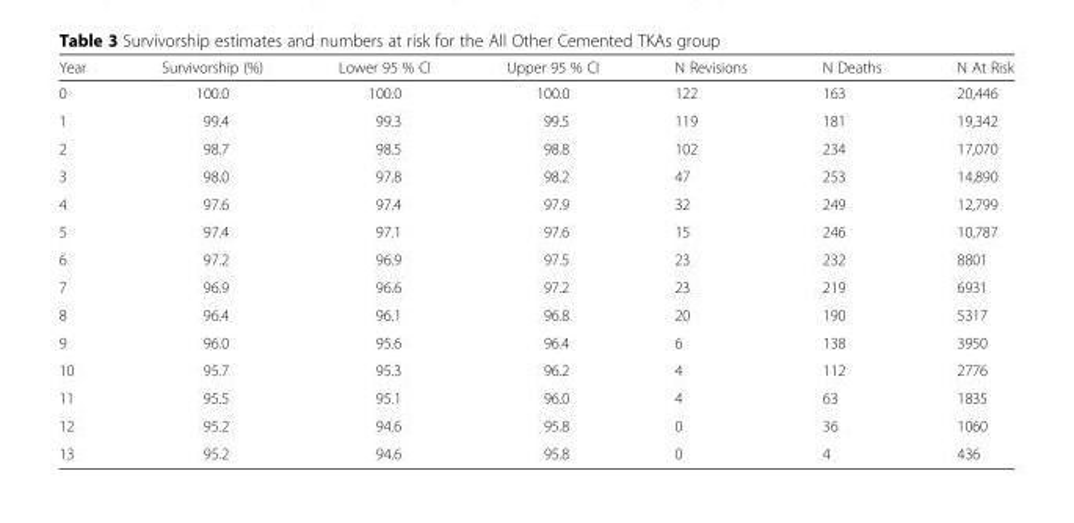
<table><thead><tr><td>Year</td><td>Survivorship (%)</td><td>Lower 95 % CI</td><td>Upper 95 % CI</td><td>N Revisions</td><td>N Deaths</td><td>N At Risk</td></tr></thead><tbody><tr><td>0</td><td>100.0</td><td>100.0</td><td>100.0</td><td>122</td><td>163</td><td>20,446</td></tr><tr><td>1</td><td>99.4</td><td>99.3</td><td>99.5</td><td>119</td><td>181</td><td>19,342</td></tr><tr><td>2</td><td>98.7</td><td>98.5</td><td>98.8</td><td>102</td><td>234</td><td>17,070</td></tr><tr><td>3</td><td>98.0</td><td>97.8</td><td>98.2</td><td>47</td><td>253</td><td>14,890</td></tr><tr><td>4</td><td>97.6</td><td>97.4</td><td>97.9</td><td>32</td><td>249</td><td>12,799</td></tr><tr><td>5</td><td>97.4</td><td>97.1</td><td>97.6</td><td>15</td><td>246</td><td>10,787</td></tr><tr><td>6</td><td>97.2</td><td>96.9</td><td>97.5</td><td>23</td><td>232</td><td>8801</td></tr><tr><td>7</td><td>96.9</td><td>96.6</td><td>97.2</td><td>23</td><td>219</td><td>6931</td></tr><tr><td>8</td><td>96.4</td><td>96.1</td><td>96.8</td><td>20</td><td>190</td><td>5317</td></tr><tr><td>9</td><td>96.0</td><td>95.6</td><td>96.4</td><td>6</td><td>138</td><td>3950</td></tr><tr><td>10</td><td>95.7</td><td>95.3</td><td>96.2</td><td>4</td><td>112</td><td>2776</td></tr><tr><td>11</td><td>95.5</td><td>95.1</td><td>96.0</td><td>4</td><td>63</td><td>1835</td></tr><tr><td>12</td><td>95.2</td><td>94.6</td><td>95.8</td><td>0</td><td>36</td><td>1060</td></tr><tr><td>13</td><td>95.2</td><td>94.6</td><td>95.8</td><td>0</td><td>4</td><td>436</td></tr></tbody></table>